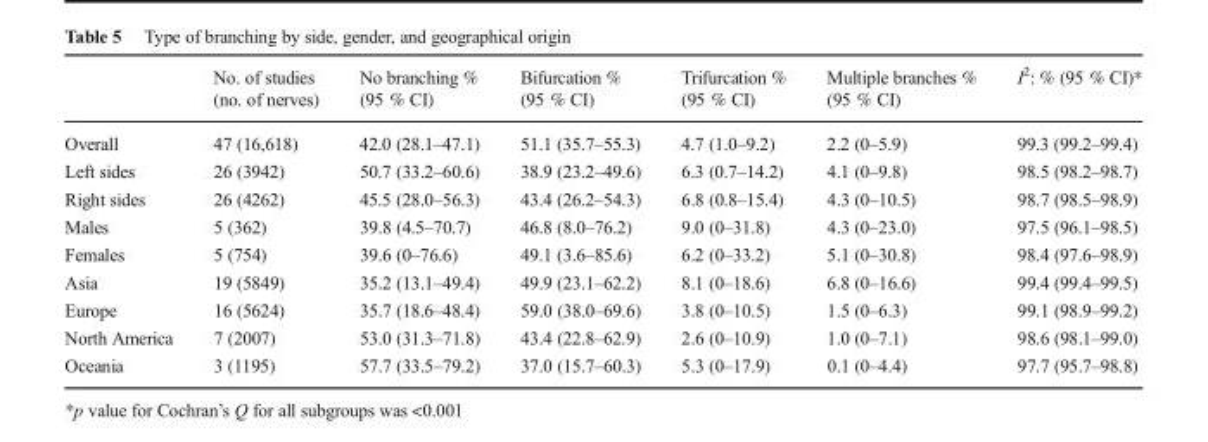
<table><thead><tr><td></td><td>No. of studies (no. of nerves)</td><td>No branching % (95 % CI)</td><td>Bifurcation % (95 % CI)</td><td>Trifurcation % (95 % CI)</td><td>Multiple branches % (95 % CI)</td><td>I<sup>2</sup>: % (95 % CI)*</td></tr></thead><tbody><tr><td>Overall</td><td>47 (16,618)</td><td>42.0 (28.1–47.1)</td><td>51.1 (35.7–55.3)</td><td>4.7 (1.0–9.2)</td><td>2.2 (0–5.9)</td><td>99.3 (99.2–99.4)</td></tr><tr><td>Left sides</td><td>26 (3942)</td><td>50.7 (33.2–60.6)</td><td>38.9 (23.2–49.6)</td><td>6.3 (0.7–14.2)</td><td>4.1 (0–9.8)</td><td>98.5 (98.2–98.7)</td></tr><tr><td>Right sides</td><td>26 (4262)</td><td>45.5 (28.0–56.3)</td><td>43.4 (26.2–54.3)</td><td>6.8 (0.8–15.4)</td><td>4.3 (0–10.5)</td><td>98.7 (98.5–98.9)</td></tr><tr><td>Males</td><td>5 (362)</td><td>39.8 (4.5–70.7)</td><td>46.8 (8.0–76.2)</td><td>9.0 (0–31.8)</td><td>4.3 (0–23.0)</td><td>97.5 (96.1–98.5)</td></tr><tr><td>Females</td><td>5 (754)</td><td>39.6 (0–76.6)</td><td>49.1 (3.6–85.6)</td><td>6.2 (0–33.2)</td><td>5.1 (0–30.8)</td><td>98.4 (97.6–98.9)</td></tr><tr><td>Asia</td><td>19 (5849)</td><td>35.2 (13.1–49.4)</td><td>49.9 (23.1–62.2)</td><td>8.1 (0–18.6)</td><td>6.8 (0–16.6)</td><td>99.4 (99.4–99.5)</td></tr><tr><td>Europe</td><td>16 (5624)</td><td>35.7 (18.6–48.4)</td><td>59.0 (38.0–69.6)</td><td>3.8 (0–10.5)</td><td>1.5 (0–6.3)</td><td>99.1 (98.9–99.2)</td></tr><tr><td>North America</td><td>7 (2007)</td><td>53.0 (31.3–71.8)</td><td>43.4 (22.8–62.9)</td><td>2.6 (0–10.9)</td><td>1.0 (0–7.1)</td><td>98.6 (98.1–99.0)</td></tr><tr><td>Oceania</td><td>3 (1195)</td><td>57.7 (33.5–79.2)</td><td>37.0 (15.7–60.3)</td><td>5.3 (0–17.9)</td><td>0.1 (0–4.4)</td><td>97.7 (95.7–98.8)</td></tr></tbody></table>